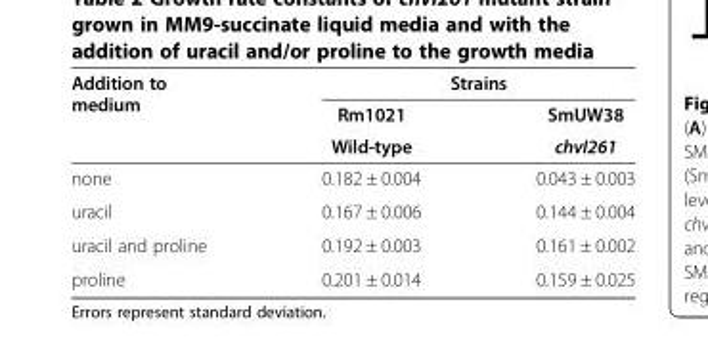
<table><thead><tr><td rowspan="3">Addition to medium</td><td colspan="2">Strains</td></tr><tr><td rowspan="2">Rm1021 Wild-type</td><td rowspan="2">SmUW38 chvI261</td></tr><tr></tr></thead><tbody><tr><td>none</td><td>0.182 ± 0.004</td><td>0.043 ± 0.003</td></tr><tr><td>uracil</td><td>0.167 ± 0.006</td><td>0.144 ± 0.004</td></tr><tr><td>uracil and proline</td><td>0.192 ± 0.003</td><td>0.161 ± 0.002</td></tr><tr><td>proline</td><td>0.201 ± 0.014</td><td>0.159 ± 0.025</td></tr></tbody></table>